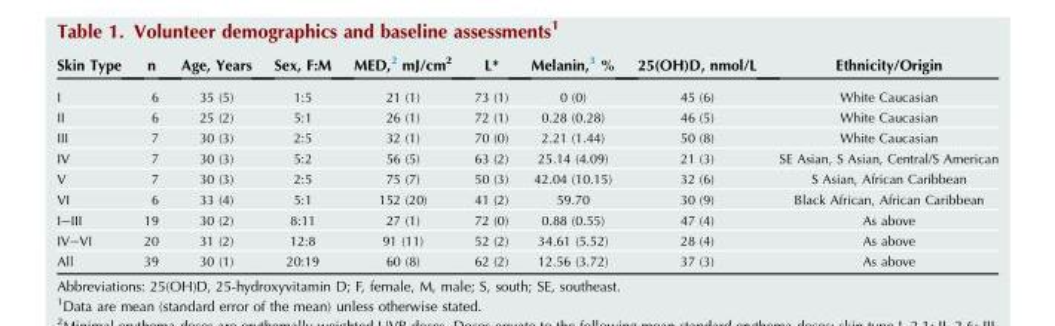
<table><thead><tr><td>Skin Type</td><td>n</td><td>Age, Years</td><td>Sex, F:M</td><td>MED,<sup>2</sup> mJ/cm<sup>2</sup></td><td>L*</td><td>Melanin,<sup>3</sup> %</td><td>25(OH)D, nmol/L</td><td>Ethnicity/Origin</td></tr></thead><tbody><tr><td>I</td><td>6</td><td>35 (5)</td><td>1:5</td><td>21 (1)</td><td>73 (1)</td><td>0 (0)</td><td>45 (6)</td><td>White Caucasian</td></tr><tr><td>II</td><td>6</td><td>25 (2)</td><td>5:1</td><td>26 (1)</td><td>72 (1)</td><td>0.28 (0.28)</td><td>46 (5)</td><td>White Caucasian</td></tr><tr><td>III</td><td>7</td><td>30 (3)</td><td>2:5</td><td>32 (1)</td><td>70 (0)</td><td>2.21 (1.44)</td><td>50 (8)</td><td>White Caucasian</td></tr><tr><td>IV</td><td>7</td><td>30 (3)</td><td>5:2</td><td>56 (5)</td><td>63 (2)</td><td>25.14 (4.09)</td><td>21 (3)</td><td>SE Asian, S Asian, Central/S American</td></tr><tr><td>V</td><td>7</td><td>30 (3)</td><td>2:5</td><td>75 (7)</td><td>50 (3)</td><td>42.04 (10.15)</td><td>32 (6)</td><td>S Asian, African Caribbean</td></tr><tr><td>VI</td><td>6</td><td>33 (4)</td><td>5:1</td><td>152 (20)</td><td>41 (2)</td><td>59.70</td><td>30 (9)</td><td>Black African, African Caribbean</td></tr><tr><td>I–III</td><td>19</td><td>30 (2)</td><td>8:11</td><td>27 (1)</td><td>72 (0)</td><td>0.88 (0.55)</td><td>47 (4)</td><td>As above</td></tr><tr><td>IV–VI</td><td>20</td><td>31 (2)</td><td>12:8</td><td>91 (11)</td><td>52 (2)</td><td>34.61 (5.52)</td><td>28 (4)</td><td>As above</td></tr><tr><td>All</td><td>39</td><td>30 (1)</td><td>20:19</td><td>60 (8)</td><td>62 (2)</td><td>12.56 (3.72)</td><td>37 (3)</td><td>As above</td></tr></tbody></table>